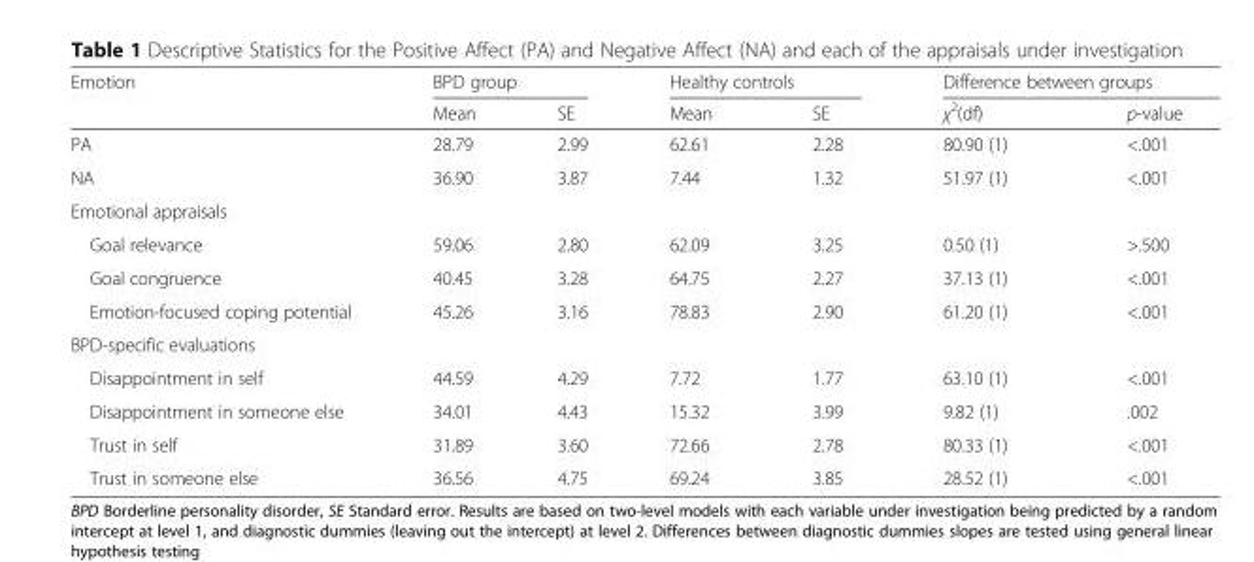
<table><thead><tr><td rowspan="2">Emotion</td><td colspan="2">BPD group</td><td colspan="2">Healthy controls</td><td colspan="2">Difference between groups</td></tr><tr><td>Mean</td><td>SE</td><td>Mean</td><td>SE</td><td>χ<sup>2</sup>(df)</td><td>p-value</td></tr></thead><tbody><tr><td>PA</td><td>28.79</td><td>2.99</td><td>62.61</td><td>2.28</td><td>80.90 (1)</td><td>&lt;.001</td></tr><tr><td>NA</td><td>36.90</td><td>3.87</td><td>7.44</td><td>1.32</td><td>51.97 (1)</td><td>&lt;.001</td></tr><tr><td colspan="7">Emotional appraisals</td></tr><tr><td>Goal relevance</td><td>59.06</td><td>2.80</td><td>62.09</td><td>3.25</td><td>0.50 (1)</td><td>&gt;.500</td></tr><tr><td>Goal congruence</td><td>40.45</td><td>3.28</td><td>64.75</td><td>2.27</td><td>37.13 (1)</td><td>&lt;.001</td></tr><tr><td>Emotion-focused coping potential</td><td>45.26</td><td>3.16</td><td>78.83</td><td>2.90</td><td>61.20 (1)</td><td>&lt;.001</td></tr><tr><td colspan="7">BPD-specific evaluations</td></tr><tr><td>Disappointment in self</td><td>44.59</td><td>4.29</td><td>7.72</td><td>1.77</td><td>63.10 (1)</td><td>&lt;.001</td></tr><tr><td>Disappointment in someone else</td><td>34.01</td><td>4.43</td><td>15.32</td><td>3.99</td><td>9.82 (1)</td><td>.002</td></tr><tr><td>Trust in self</td><td>31.89</td><td>3.60</td><td>72.66</td><td>2.78</td><td>80.33 (1)</td><td>&lt;.001</td></tr><tr><td>Trust in someone else</td><td>36.56</td><td>4.75</td><td>69.24</td><td>3.85</td><td>28.52 (1)</td><td>&lt;.001</td></tr></tbody></table>